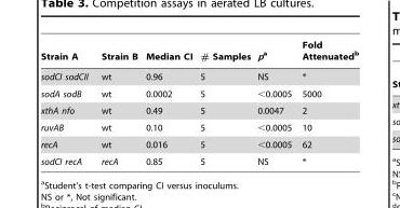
<table><thead><tr><td>Strain A</td><td>Strain B</td><td>Median CI</td><td># Samples</td><td>pa</td><td>Fold Attenuated<sup>b</sup></td></tr></thead><tbody><tr><td>sodCI sodCII</td><td>wt</td><td>0.96</td><td>5</td><td>NS</td><td>*</td></tr><tr><td>sodA sodB</td><td>wt</td><td>0.0002</td><td>5</td><td>&lt;0.0005</td><td>5000</td></tr><tr><td>xthA nfo</td><td>wt</td><td>0.49</td><td>5</td><td>0.0047</td><td>2</td></tr><tr><td>ruvAB</td><td>wt</td><td>0.10</td><td>5</td><td>&lt;0.0005</td><td>10</td></tr><tr><td>recA</td><td>wt</td><td>0.016</td><td>5</td><td>&lt;0.0005</td><td>62</td></tr><tr><td>sodCI recA</td><td>recA</td><td>0.85</td><td>5</td><td>NS</td><td>*</td></tr></tbody></table>